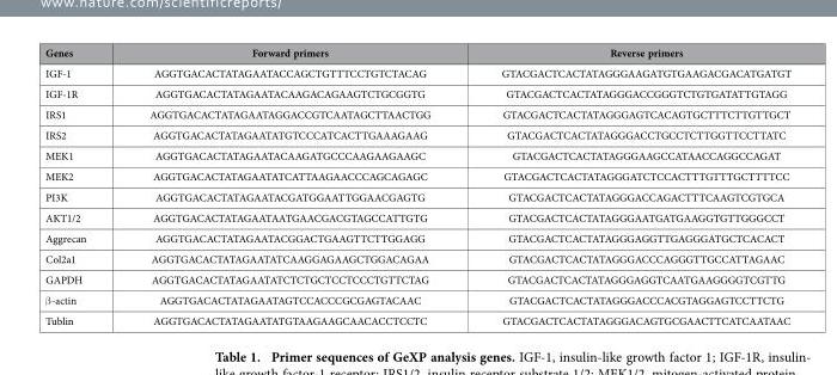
<table><thead><tr><td>Genes</td><td>Forward primers</td><td>Reverse primers</td></tr></thead><tbody><tr><td>IGF-1</td><td>AGGTGACACTATAGAATACCAGCTGTTTCCTGTCTACAG</td><td>GTACGACTCACTATAGGGAAGATGTGAAGACGACATGATGT</td></tr><tr><td>IGF-1R</td><td>AGGTGACACTATAGAATACAAGACAGAAGTCTGCGGTG</td><td>GTACGACTCACTATAGGGACCGGGTCTGTGATATTGTAGG</td></tr><tr><td>IRS1</td><td>AGGTGACACTATAGAATAGGACCGTCAATAGCTTAACTGG</td><td>GTACGACTCACTATAGGGAGTCACAGTGCTTTCTTGTTGCT</td></tr><tr><td>IRS2</td><td>AGGTGACACTATAGAATATGTCCCATCACTTGAAAGAAG</td><td>GTACGACTCACTATAGGGACCTGCCTCTTGGTTCCTTATC</td></tr><tr><td>MEK1</td><td>AGGTGACACTATAGAATACAAGATGCCCAAGAAGAAGC</td><td>GTACGACTCACTATAGGGAAGCCATAACCAGGCCAGAT</td></tr><tr><td>MEK2</td><td>AGGTGACACTATAGAATATCATTAAGAACCCAGCAGAGC</td><td>GTACGACTCACTATAGGGATCTCCACTTTGTTTGCTTTTCC</td></tr><tr><td>PI3K</td><td>AGGTGACACTATAGAATACGATGGAATTGGAACGAGTG</td><td>GTACGACTCACTATAGGGACCAGACTTTCAAGTCGTGCA</td></tr><tr><td>AKT1/2</td><td>AGGTGACACTATAGAATAATGAACGACGTAGCCATTGTG</td><td>GTACGACTCACTATAGGGAATGATGAAGGTGTTGGGCCT</td></tr><tr><td>Aggrecan</td><td>AGGTGACACTATAGAATACGGACTGAAGTTCTTGGAGG</td><td>GTACGACTCACTATAGGGAGGTTGAGGGATGCTCACACT</td></tr><tr><td>Col2a1</td><td>AGGTGACACTATAGAATATCAAGGAGAAGCTGGACAGAA</td><td>GTACGACTCACTATAGGGACCCAGGGTTGCCATTAGAAC</td></tr><tr><td>GAPDH</td><td>AGGTGACACTATAGAATATCTCTGCTCCTCCCTGTTCTAG</td><td>GTACGACTCACTATAGGGAGGTCAATGAAGGGGTCGTTG</td></tr><tr><td>β -actin</td><td>AGGTGACACTATAGAATAGTCCACCCGCGAGTACAAC</td><td>GTACGACTCACTATAGGGACCCACGTAGGAGTCCTTCTG</td></tr><tr><td>Tublin</td><td>AGGTGACACTATAGAATATGTAAGAAGCAACACCTCCTC</td><td>GTACGACTCACTATAGGGACAGTGCGAACTTCATCAATAAC</td></tr></tbody></table>